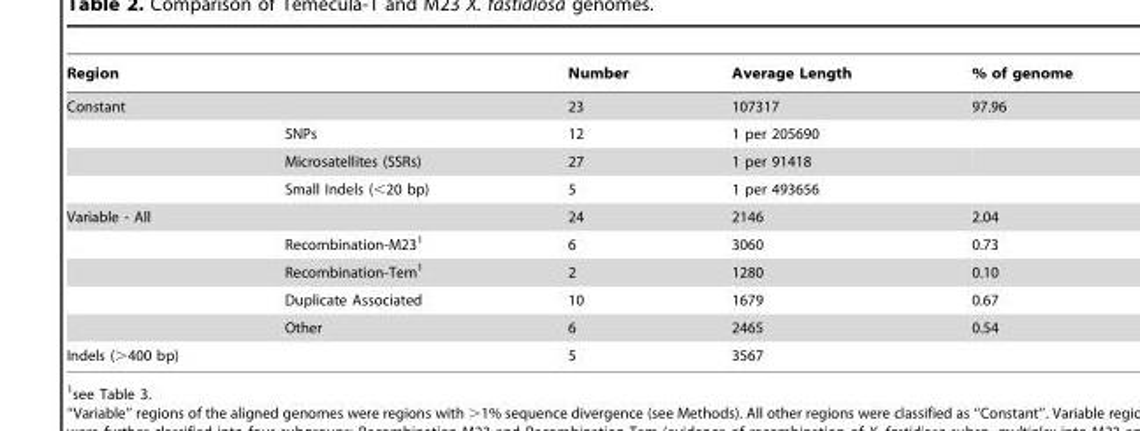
<table><thead><tr><td>Region</td><td></td><td>Number</td><td>Average Length</td><td>% of genome</td></tr></thead><tbody><tr><td rowspan="4">Constant</td><td></td><td>23</td><td>107317</td><td>97.96</td></tr><tr><td>SNPs</td><td>12</td><td>1 per 205690</td><td></td></tr><tr><td>Microsatellites (SSRs)</td><td>27</td><td>1 per 91418</td><td></td></tr><tr><td>Small Indels (&lt;20 bp)</td><td>5</td><td>1 per 493656</td><td></td></tr><tr><td rowspan="5">Variable - All</td><td></td><td>24</td><td>2146</td><td>2.04</td></tr><tr><td>Recombination-M23<sup>1</sup></td><td>6</td><td>3060</td><td>0.73</td></tr><tr><td>Recombination-Tem<sup>1</sup></td><td>2</td><td>1280</td><td>0.10</td></tr><tr><td>Duplicate Associated</td><td>10</td><td>1679</td><td>0.67</td></tr><tr><td>Other</td><td>6</td><td>2465</td><td>0.54</td></tr><tr><td>Indels (&gt;400 bp)</td><td></td><td>5</td><td>3567</td><td></td></tr></tbody></table>